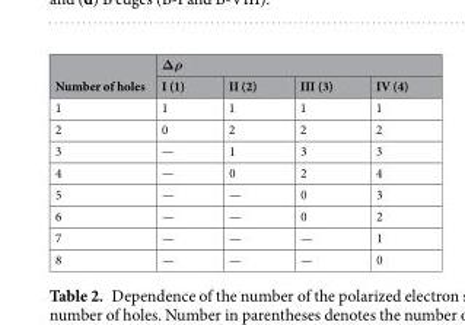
<table><thead><tr><td rowspan="2">Number of holes</td><td colspan="4">Δρ</td></tr><tr><td>I (1)</td><td>II (2)</td><td>III (3)</td><td>IV (4)</td></tr></thead><tbody><tr><td>1</td><td>1</td><td>1</td><td>1</td><td>1</td></tr><tr><td>2</td><td>0</td><td>2</td><td>2</td><td>2</td></tr><tr><td>3</td><td>—</td><td>1</td><td>3</td><td>3</td></tr><tr><td>4</td><td>—</td><td>0</td><td>2</td><td>4</td></tr><tr><td>5</td><td>—</td><td>—</td><td>0</td><td>3</td></tr><tr><td>6</td><td>—</td><td>—</td><td>0</td><td>2</td></tr><tr><td>7</td><td>—</td><td>—</td><td>—</td><td>1</td></tr><tr><td>8</td><td>—</td><td>—</td><td>—</td><td>0</td></tr></tbody></table>